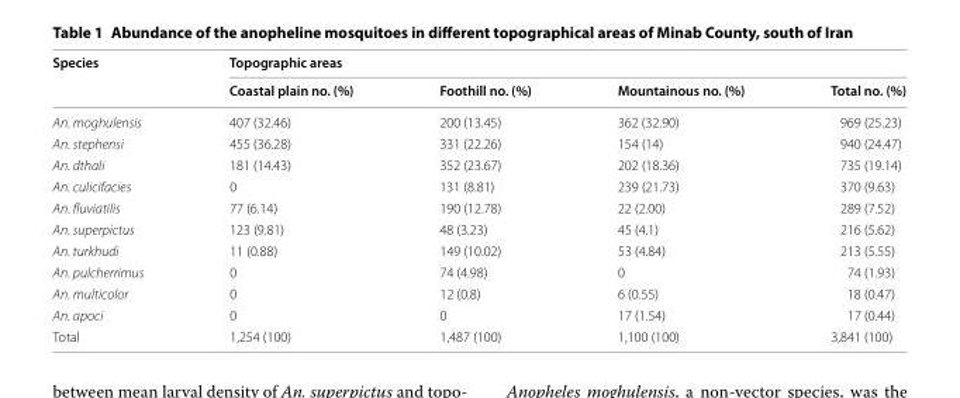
<table><thead><tr><td rowspan="2">Species</td><td colspan="4">Topographic areas</td></tr><tr><td>Coastal plain no. (%)</td><td>Foothill no. (%)</td><td>Mountainous no. (%)</td><td>Total no. (%)</td></tr></thead><tbody><tr><td>An. moghulensis</td><td>407 (32.46)</td><td>200 (13.45)</td><td>362 (32.90)</td><td>969 (25.23)</td></tr><tr><td>An. stephensi</td><td>455 (36.28)</td><td>331 (22.26)</td><td>154 (14)</td><td>940 (24.47)</td></tr><tr><td>An. dthali</td><td>181 (14.43)</td><td>352 (23.67)</td><td>202 (18.36)</td><td>735 (19.14)</td></tr><tr><td>An. culicifacies</td><td>0</td><td>131 (8.81)</td><td>239 (21.73)</td><td>370 (9.63)</td></tr><tr><td>An. fluviatilis</td><td>77 (6.14)</td><td>190 (12.78)</td><td>22 (2.00)</td><td>289 (7.52)</td></tr><tr><td>An. superpictus</td><td>123 (9.81)</td><td>48 (3.23)</td><td>45 (4.1)</td><td>216 (5.62)</td></tr><tr><td>An. turkhudi</td><td>11 (0.88)</td><td>149 (10.02)</td><td>53 (4.84)</td><td>213 (5.55)</td></tr><tr><td>An. pulcherrimus</td><td>0</td><td>74 (4.98)</td><td>0</td><td>74 (1.93)</td></tr><tr><td>An. multicolor</td><td>0</td><td>12 (0.8)</td><td>6 (0.55)</td><td>18 (0.47)</td></tr><tr><td>An. apoci</td><td>0</td><td>0</td><td>17 (1.54)</td><td>17 (0.44)</td></tr><tr><td>Total</td><td>1,254 (100)</td><td>1,487 (100)</td><td>1,100 (100)</td><td>3,841 (100)</td></tr></tbody></table>